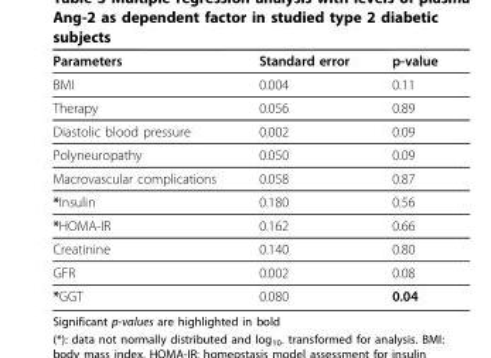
<table><thead><tr><td>Parameters</td><td>Standard error</td><td>p-value</td></tr></thead><tbody><tr><td>BMI</td><td>0.004</td><td>0.11</td></tr><tr><td>Therapy</td><td>0.056</td><td>0.89</td></tr><tr><td>Diastolic blood pressure</td><td>0.002</td><td>0.09</td></tr><tr><td>Polyneuropathy</td><td>0.050</td><td>0.09</td></tr><tr><td>Macrovascular complications</td><td>0.058</td><td>0.87</td></tr><tr><td>*Insulin</td><td>0.180</td><td>0.56</td></tr><tr><td>*HOMA-IR</td><td>0.162</td><td>0.66</td></tr><tr><td>Creatinine</td><td>0.140</td><td>0.80</td></tr><tr><td>GFR</td><td>0.002</td><td>0.08</td></tr><tr><td>*GGT</td><td>0.080</td><td>0.04</td></tr></tbody></table>